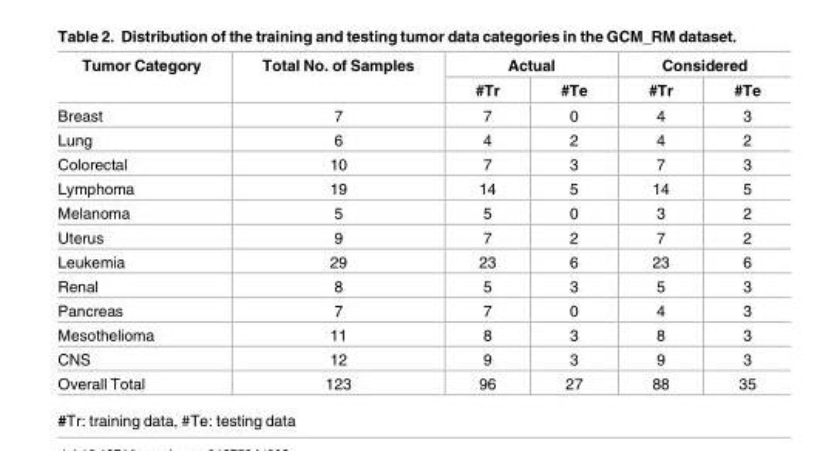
<table><thead><tr><td rowspan="2">Tumor Category</td><td rowspan="2">Total No. of Samples</td><td colspan="2">Actual</td><td colspan="2">Considered</td></tr><tr><td>#Tr</td><td>#Te</td><td>#Tr</td><td>#Te</td></tr></thead><tbody><tr><td>Breast</td><td>7</td><td>7</td><td>0</td><td>4</td><td>3</td></tr><tr><td>Lung</td><td>6</td><td>4</td><td>2</td><td>4</td><td>2</td></tr><tr><td>Colorectal</td><td>10</td><td>7</td><td>3</td><td>7</td><td>3</td></tr><tr><td>Lymphoma</td><td>19</td><td>14</td><td>5</td><td>14</td><td>5</td></tr><tr><td>Melanoma</td><td>5</td><td>5</td><td>0</td><td>3</td><td>2</td></tr><tr><td>Uterus</td><td>9</td><td>7</td><td>2</td><td>7</td><td>2</td></tr><tr><td>Leukemia</td><td>29</td><td>23</td><td>6</td><td>23</td><td>6</td></tr><tr><td>Renal</td><td>8</td><td>5</td><td>3</td><td>5</td><td>3</td></tr><tr><td>Pancreas</td><td>7</td><td>7</td><td>0</td><td>4</td><td>3</td></tr><tr><td>Mesothelioma</td><td>11</td><td>8</td><td>3</td><td>8</td><td>3</td></tr><tr><td>CNS</td><td>12</td><td>9</td><td>3</td><td>9</td><td>3</td></tr><tr><td>Overall Total</td><td>123</td><td>96</td><td>27</td><td>88</td><td>35</td></tr></tbody></table>